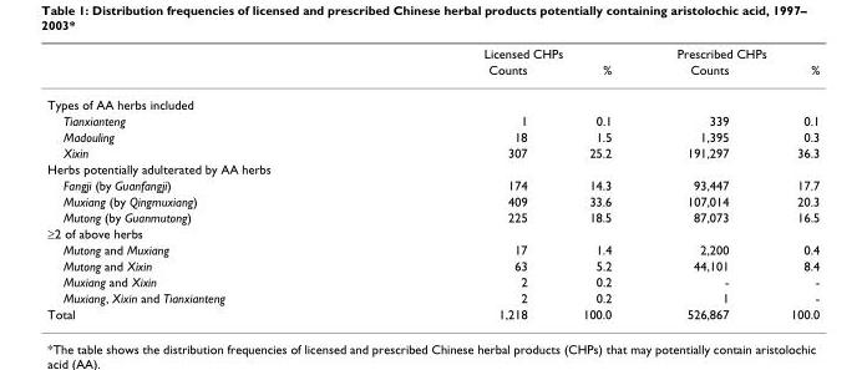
<table><thead><tr><td rowspan="2"></td><td colspan="2">Licensed CHPs</td><td colspan="2">Prescribed CHPs</td></tr><tr><td>Counts</td><td>%</td><td>Counts</td><td>%</td></tr></thead><tbody><tr><td colspan="5">Types of AA herbs included</td></tr><tr><td>Tianxianteng</td><td>1</td><td>0.1</td><td>339</td><td>0.1</td></tr><tr><td>Madouling</td><td>18</td><td>1.5</td><td>1,395</td><td>0.3</td></tr><tr><td>Xixin</td><td>307</td><td>25.2</td><td>191,297</td><td>36.3</td></tr><tr><td colspan="5">Herbs potentially adulterated by AA herbs</td></tr><tr><td>Fangji (by Guanfangji)</td><td>174</td><td>14.3</td><td>93,447</td><td>17.7</td></tr><tr><td>Muxiang (by Qingmuxiang)</td><td>409</td><td>33.6</td><td>107,014</td><td>20.3</td></tr><tr><td>Mutong (by Guanmutong)</td><td>225</td><td>18.5</td><td>87,073</td><td>16.5</td></tr><tr><td colspan="5">≥2 of above herbs</td></tr><tr><td>Mutong and Muxiang</td><td>17</td><td>1.4</td><td>2,200</td><td>0.4</td></tr><tr><td>Mutong and Xixin</td><td>63</td><td>5.2</td><td>44,101</td><td>8.4</td></tr><tr><td>Muxiang and Xixin</td><td>2</td><td>0.2</td><td>-</td><td>-</td></tr><tr><td>Muxiang, Xixin and Tianxianteng</td><td>2</td><td>0.2</td><td>1</td><td>-</td></tr><tr><td>Total</td><td>1,218</td><td>100.0</td><td>526,867</td><td>100.0</td></tr></tbody></table>